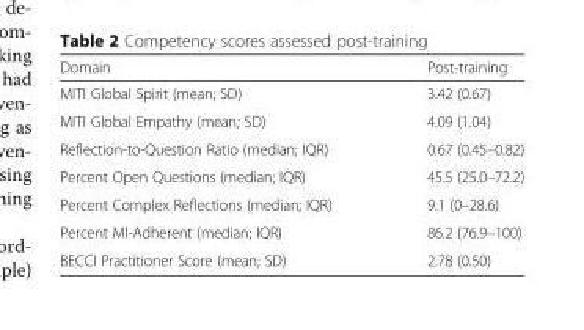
<table><thead><tr><td>Domain</td><td>Post-training</td></tr></thead><tbody><tr><td>MITI Global Spirit (mean; SD)</td><td>3.42 (0.67)</td></tr><tr><td>MITI Global Empathy (mean; SD)</td><td>4.09 (1.04)</td></tr><tr><td>Reflection-to-Question Ratio (median; IQR)</td><td>0.67 (0.45–0.82)</td></tr><tr><td>Percent Open Questions (median; IQR)</td><td>45.5 (25.0–72.2)</td></tr><tr><td>Percent Complex Reflections (median; IQR)</td><td>9.1 (0–28.6)</td></tr><tr><td>Percent MI-Adherent (median; IQR)</td><td>86.2 (76.9–100)</td></tr><tr><td>BECCI Practitioner Score (mean; SD)</td><td>2.78 (0.50)</td></tr></tbody></table>